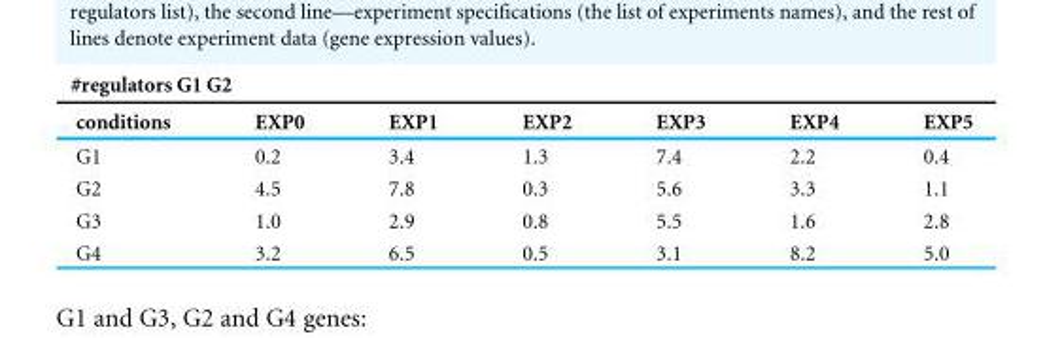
<table><thead><tr><td colspan="7">#regulators G1 G2</td></tr><tr><td>conditions</td><td>EXP0</td><td>EXP1</td><td>EXP2</td><td>EXP3</td><td>EXP4</td><td>EXP5</td></tr></thead><tbody><tr><td>G1</td><td>0.2</td><td>3.4</td><td>1.3</td><td>7.4</td><td>2.2</td><td>0.4</td></tr><tr><td>G2</td><td>4.5</td><td>7.8</td><td>0.3</td><td>5.6</td><td>3.3</td><td>1.1</td></tr><tr><td>G3</td><td>1.0</td><td>2.9</td><td>0.8</td><td>5.5</td><td>1.6</td><td>2.8</td></tr><tr><td>G4</td><td>3.2</td><td>6.5</td><td>0.5</td><td>3.1</td><td>8.2</td><td>5.0</td></tr></tbody></table>